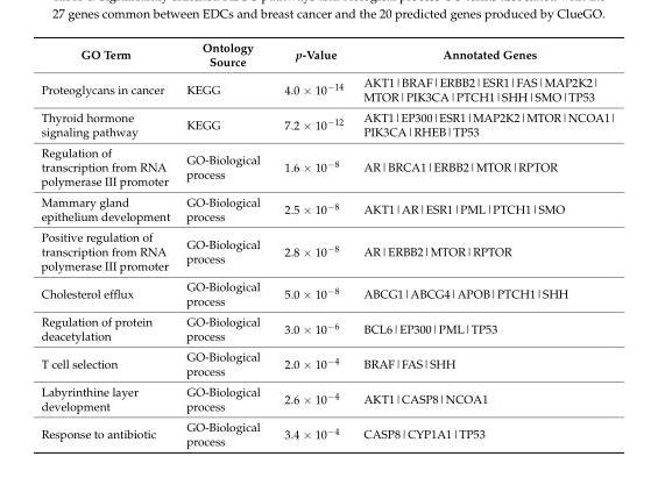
<table><thead><tr><td>GO Term</td><td>Ontology Source</td><td>p-Value</td><td>Annotated Genes</td></tr></thead><tbody><tr><td>Proteoglycans in cancer</td><td>KEGG</td><td>4.0 × 10<sup>−14</sup></td><td>AKT1|BRAF|ERBB2|ESR1|FAS|MAP2K2| MTOR|PIK3CA|PTCH1|SHH|SMO|TP53</td></tr><tr><td>Thyroid hormone signaling pathway</td><td>KEGG</td><td>7.2 × 10<sup>−12</sup></td><td>AKT1|EP300|ESR1|MAP2K2|MTOR|NCOA1| PIK3CA|RHEB|TP53</td></tr><tr><td>Regulation of transcription from RNA polymerase III promoter</td><td>GO-Biological process</td><td>1.6 × 10<sup>−8</sup></td><td>AR|BRCA1|ERBB2|MTOR|RPTOR</td></tr><tr><td>Mammary gland epithelium development</td><td>GO-Biological process</td><td>2.5 × 10<sup>−8</sup></td><td>AKT1|AR|ESR1|PML|PTCH1|SMO</td></tr><tr><td>Positive regulation of transcription from RNA polymerase III promoter</td><td>GO-Biological process</td><td>2.8 × 10<sup>−8</sup></td><td>AR|ERBB2|MTOR|RPTOR</td></tr><tr><td>Cholesterol efflux</td><td>GO-Biological process</td><td>5.0 × 10<sup>−8</sup></td><td>ABCG1|ABCG4|APOB|PTCH1|SHH</td></tr><tr><td>Regulation of protein deacetylation</td><td>GO-Biological process</td><td>3.0 × 10<sup>−6</sup></td><td>BCL6|EP300|PML|TP53</td></tr><tr><td>T cell selection</td><td>GO-Biological process</td><td>2.0 × 10<sup>−4</sup></td><td>BRAF|FAS|SHH</td></tr><tr><td>Labyrinthine layer development</td><td>GO-Biological process</td><td>2.6 × 10<sup>−4</sup></td><td>AKT1|CASP8|NCOA1</td></tr><tr><td>Response to antibiotic</td><td>GO-Biological process</td><td>3.4 × 10<sup>−4</sup></td><td>CASP8|CYP1A1|TP53</td></tr></tbody></table>